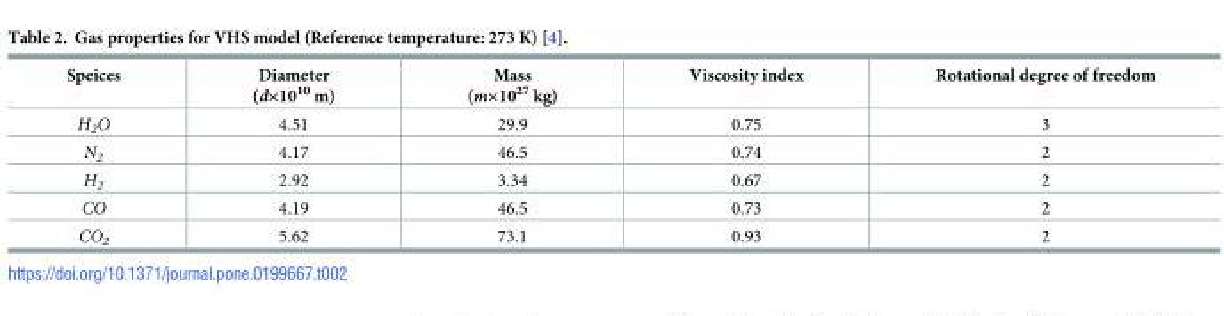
<table><thead><tr><td>Speices</td><td>Diameter (d×1010 m)</td><td>Mass (m×1027 kg)</td><td>Viscosity index</td><td>Rotational degree of freedom</td></tr></thead><tbody><tr><td>H<sub>2</sub>O</td><td>4.51</td><td>29.9</td><td>0.75</td><td>3</td></tr><tr><td>N<sub>2</sub></td><td>4.17</td><td>46.5</td><td>0.74</td><td>2</td></tr><tr><td>H<sub>2</sub></td><td>2.92</td><td>3.34</td><td>0.67</td><td>2</td></tr><tr><td>CO</td><td>4.19</td><td>46.5</td><td>0.73</td><td>2</td></tr><tr><td>CO<sub>2</sub></td><td>5.62</td><td>73.1</td><td>0.93</td><td>2</td></tr></tbody></table>